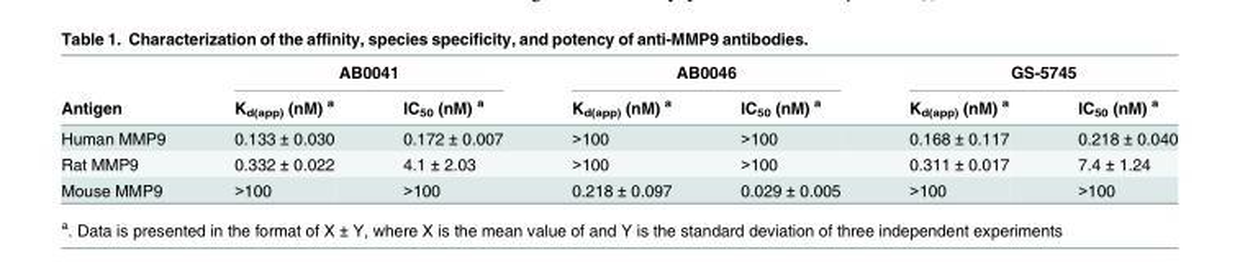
<table><thead><tr><td rowspan="2">Antigen</td><td colspan="2">AB0041</td><td colspan="2">AB0046</td><td colspan="2">GS-5745</td></tr><tr><td>K<sub>d(app)</sub> (nM) <sup>a</sup></td><td>IC<sub>50</sub> (nM) <sup>a</sup></td><td>K<sub>d(app)</sub> (nM) <sup>a</sup></td><td>IC<sub>50</sub> (nM) <sup>a</sup></td><td>K<sub>d(app)</sub> (nM) <sup>a</sup></td><td>IC<sub>50</sub> (nM) <sup>a</sup></td></tr></thead><tbody><tr><td>Human MMP9</td><td>0.133 ± 0.030</td><td>0.172 ± 0.007</td><td>&gt;100</td><td>&gt;100</td><td>0.168 ± 0.117</td><td>0.218 ± 0.040</td></tr><tr><td>Rat MMP9</td><td>0.332 ± 0.022</td><td>4.1 ± 2.03</td><td>&gt;100</td><td>&gt;100</td><td>0.311 ± 0.017</td><td>7.4 ± 1.24</td></tr><tr><td>Mouse MMP9</td><td>&gt;100</td><td>&gt;100</td><td>0.218 ± 0.097</td><td>0.029 ± 0.005</td><td>&gt;100</td><td>&gt;100</td></tr></tbody></table>